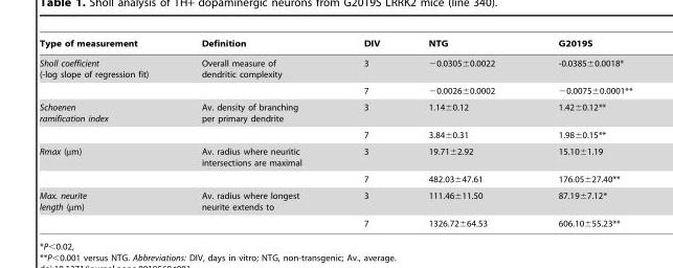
<table><thead><tr><td>Type of measurement</td><td>Definition</td><td>DIV</td><td>NTG</td><td>G2019S</td></tr></thead><tbody><tr><td rowspan="2">Sholl coefficient (-log slope of regression fit)</td><td>Overall measure of dendritic complexity</td><td>3</td><td>−0.0305±0.0022</td><td>-0.0385±0.0018*</td></tr><tr><td></td><td>7</td><td>−0.0026±0.0002</td><td>−0.0075±0.0001**</td></tr><tr><td rowspan="2">Schoenen ramification index</td><td>Av. density of branching per primary dendrite</td><td>3</td><td>1.14±0.12</td><td>1.42±0.12**</td></tr><tr><td></td><td>7</td><td>3.84±0.31</td><td>1.98±0.15**</td></tr><tr><td rowspan="2">Rmax (µm)</td><td>Av. radius where neuritic intersections are maximal</td><td>3</td><td>19.71±2.92</td><td>15.10±1.19</td></tr><tr><td></td><td>7</td><td>482.03±47.61</td><td>176.05±27.40**</td></tr><tr><td rowspan="2">Max. neurite length (µm)</td><td>Av. radius where longest neurite extends to</td><td>3</td><td>111.46±11.50</td><td>87.19±7.12*</td></tr><tr><td></td><td>7</td><td>1326.72±64.53</td><td>606.10±55.23**</td></tr></tbody></table>